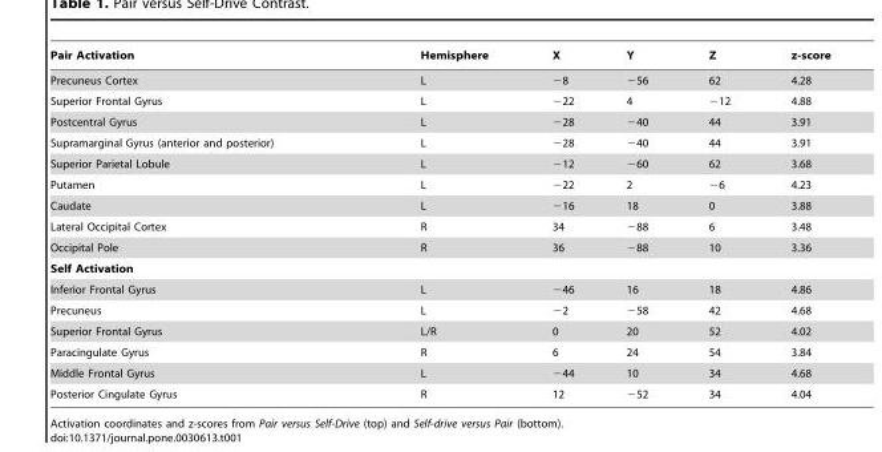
<table><thead><tr><td>Pair Activation</td><td>Hemisphere</td><td>X</td><td>Y</td><td>Z</td><td>z-score</td></tr></thead><tbody><tr><td>Precuneus Cortex</td><td>L</td><td>−8</td><td>−56</td><td>62</td><td>4.28</td></tr><tr><td>Superior Frontal Gyrus</td><td>L</td><td>−22</td><td>4</td><td>−12</td><td>4.88</td></tr><tr><td>Postcentral Gyrus</td><td>L</td><td>−28</td><td>−40</td><td>44</td><td>3.91</td></tr><tr><td>Supramarginal Gyrus (anterior and posterior)</td><td>L</td><td>−28</td><td>−40</td><td>44</td><td>3.91</td></tr><tr><td>Superior Parietal Lobule</td><td>L</td><td>−12</td><td>−60</td><td>62</td><td>3.68</td></tr><tr><td>Putamen</td><td>L</td><td>−22</td><td>2</td><td>−6</td><td>4.23</td></tr><tr><td>Caudate</td><td>L</td><td>−16</td><td>18</td><td>0</td><td>3.88</td></tr><tr><td>Lateral Occipital Cortex</td><td>R</td><td>34</td><td>−88</td><td>6</td><td>3.48</td></tr><tr><td>Occipital Pole</td><td>R</td><td>36</td><td>−88</td><td>10</td><td>3.36</td></tr><tr><td colspan="6">Self Activation</td></tr><tr><td>Inferior Frontal Gyrus</td><td>L</td><td>−46</td><td>16</td><td>18</td><td>4.86</td></tr><tr><td>Precuneus</td><td>L</td><td>−2</td><td>−58</td><td>42</td><td>4.68</td></tr><tr><td>Superior Frontal Gyrus</td><td>L/R</td><td>0</td><td>20</td><td>52</td><td>4.02</td></tr><tr><td>Paracingulate Gyrus</td><td>R</td><td>6</td><td>24</td><td>54</td><td>3.84</td></tr><tr><td>Middle Frontal Gyrus</td><td>L</td><td>−44</td><td>10</td><td>34</td><td>4.68</td></tr><tr><td>Posterior Cingulate Gyrus</td><td>R</td><td>12</td><td>−52</td><td>34</td><td>4.04</td></tr></tbody></table>